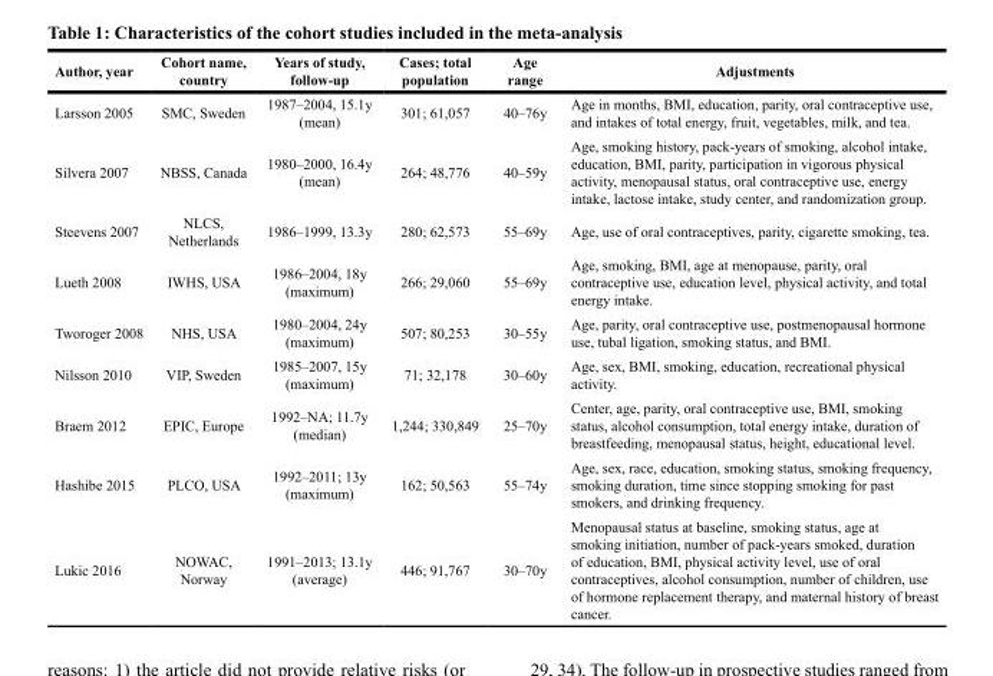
<table><thead><tr><td>Author, year</td><td>Cohort name, country</td><td>Years of study, follow-up</td><td>Cases; total population</td><td>Age range</td><td>Adjustments</td></tr></thead><tbody><tr><td>Larsson 2005</td><td>SMC, Sweden</td><td>1987–2004, 15.1y (mean)</td><td>301; 61,057</td><td>40–76y</td><td>Age in months, BMI, education, parity, oral contraceptive use, and intakes of total energy, fruit, vegetables, milk, and tea.</td></tr><tr><td>Silvera 2007</td><td>NBSS, Canada</td><td>1980–2000, 16.4y (mean)</td><td>264; 48,776</td><td>40–59y</td><td>Age, smoking history, pack-years of smoking, alcohol intake, education, BMI, parity, participation in vigorous physical activity, menopausal status, oral contraceptive use, energy intake, lactose intake, study center, and randomization group.</td></tr><tr><td>Steevens 2007</td><td>NLCS, Netherlands</td><td>1986–1999, 13.3y</td><td>280; 62,573</td><td>55–69y</td><td>Age, use of oral contraceptives, parity, cigarette smoking, tea.</td></tr><tr><td>Lueth 2008</td><td>IWHS, USA</td><td>1986–2004, 18y (maximum)</td><td>266; 29,060</td><td>55–69y</td><td>Age, smoking, BMI, age at menopause, parity, oral contraceptive use, education level, physical activity, and total energy intake.</td></tr><tr><td>Tworoger 2008</td><td>NHS, USA</td><td>1980–2004, 24y (maximum)</td><td>507; 80,253</td><td>30–55y</td><td>Age, parity, oral contraceptive use, postmenopausal hormone use, tubal ligation, smoking status, and BMI.</td></tr><tr><td>Nilsson 2010</td><td>VIP, Sweden</td><td>1985–2007, 15y (maximum)</td><td>71; 32,178</td><td>30–60y</td><td>Age, sex, BMI, smoking, education, recreational physical activity.</td></tr><tr><td>Braem 2012</td><td>EPIC, Europe</td><td>1992–NA; 11.7y (median)</td><td>1,244; 330,849</td><td>25–70y</td><td>Center, age, parity, oral contraceptive use, BMI, smoking status, alcohol consumption, total energy intake, duration of breastfeeding, menopausal status, height, educational level.</td></tr><tr><td>Hashibe 2015</td><td>PLCO, USA</td><td>1992–2011; 13y (maximum)</td><td>162; 50,563</td><td>55–74y</td><td>Age, sex, race, education, smoking status, smoking frequency, smoking duration, time since stopping smoking for past smokers, and drinking frequency.</td></tr><tr><td>Lukic 2016</td><td>NOWAC, Norway</td><td>1991–2013; 13.1y (average)</td><td>446; 91,767</td><td>30–70y</td><td>Menopausal status at baseline, smoking status, age at smoking initiation, number of pack-years smoked, duration of education, BMI, physical activity level, use of oral contraceptives, alcohol consumption, number of children, use of hormone replacement therapy, and maternal history of breast cancer.</td></tr></tbody></table>